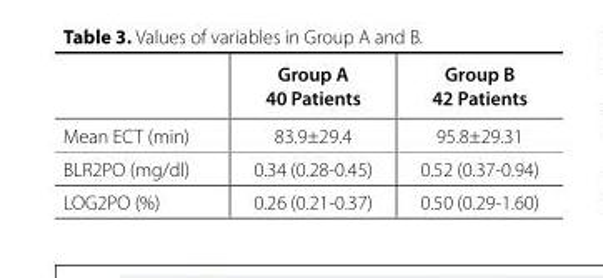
<table><thead><tr><td></td><td>Group A 40 Patients</td><td>Group B 42 Patients</td></tr></thead><tbody><tr><td>Mean ECT (min)</td><td>83.9±29.4</td><td>95.8±29.31</td></tr><tr><td>BLR2PO (mg/dl)</td><td>0.34 (0.28-0.45)</td><td>0.52 (0.37-0.94)</td></tr><tr><td>LOG2PO (%)</td><td>0.26 (0.21-0.37)</td><td>0.50 (0.29-1.60)</td></tr></tbody></table>